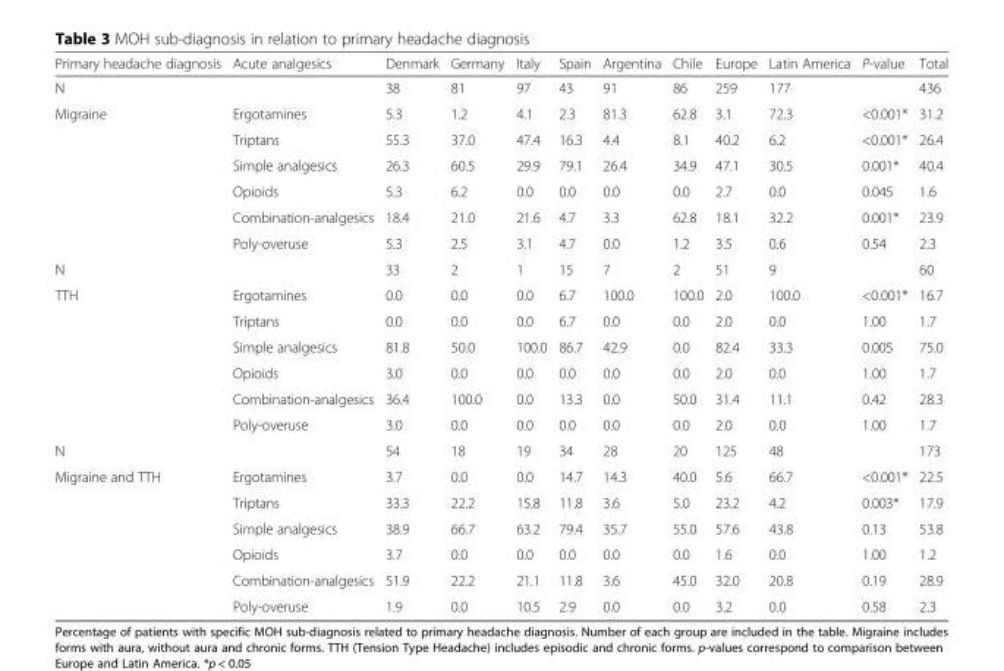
<table><thead><tr><td>Primary headache diagnosis</td><td>Acute analgesics</td><td>Denmark</td><td>Germany</td><td>Italy</td><td>Spain</td><td>Argentina</td><td>Chile</td><td>Europe</td><td>Latin America</td><td>P-value</td><td>Total</td></tr></thead><tbody><tr><td>N</td><td></td><td>38</td><td>81</td><td>97</td><td>43</td><td>91</td><td>86</td><td>259</td><td>177</td><td></td><td>436</td></tr><tr><td rowspan="6">Migraine</td><td>Ergotamines</td><td>5.3</td><td>1.2</td><td>4.1</td><td>2.3</td><td>81.3</td><td>62.8</td><td>3.1</td><td>72.3</td><td>&lt;0.001*</td><td>31.2</td></tr><tr><td>Triptans</td><td>55.3</td><td>37.0</td><td>47.4</td><td>16.3</td><td>4.4</td><td>8.1</td><td>40.2</td><td>6.2</td><td>&lt;0.001*</td><td>26.4</td></tr><tr><td>Simple analgesics</td><td>26.3</td><td>60.5</td><td>29.9</td><td>79.1</td><td>26.4</td><td>34.9</td><td>47.1</td><td>30.5</td><td>0.001*</td><td>40.4</td></tr><tr><td>Opioids</td><td>5.3</td><td>6.2</td><td>0.0</td><td>0.0</td><td>0.0</td><td>0.0</td><td>2.7</td><td>0.0</td><td>0.045</td><td>1.6</td></tr><tr><td>Combination-analgesics</td><td>18.4</td><td>21.0</td><td>21.6</td><td>4.7</td><td>3.3</td><td>62.8</td><td>18.1</td><td>32.2</td><td>0.001*</td><td>23.9</td></tr><tr><td>Poly-overuse</td><td>5.3</td><td>2.5</td><td>3.1</td><td>4.7</td><td>0.0</td><td>1.2</td><td>3.5</td><td>0.6</td><td>0.54</td><td>2.3</td></tr><tr><td>N</td><td></td><td>33</td><td>2</td><td>1</td><td>15</td><td>7</td><td>2</td><td>51</td><td>9</td><td></td><td>60</td></tr><tr><td rowspan="6">TTH</td><td>Ergotamines</td><td>0.0</td><td>0.0</td><td>0.0</td><td>6.7</td><td>100.0</td><td>100.0</td><td>2.0</td><td>100.0</td><td>&lt;0.001*</td><td>16.7</td></tr><tr><td>Triptans</td><td>0.0</td><td>0.0</td><td>0.0</td><td>6.7</td><td>0.0</td><td>0.0</td><td>2.0</td><td>0.0</td><td>1.00</td><td>1.7</td></tr><tr><td>Simple analgesics</td><td>81.8</td><td>50.0</td><td>100.0</td><td>86.7</td><td>42.9</td><td>0.0</td><td>82.4</td><td>33.3</td><td>0.005</td><td>75.0</td></tr><tr><td>Opioids</td><td>3.0</td><td>0.0</td><td>0.0</td><td>0.0</td><td>0.0</td><td>0.0</td><td>2.0</td><td>0.0</td><td>1.00</td><td>1.7</td></tr><tr><td>Combination-analgesics</td><td>36.4</td><td>100.0</td><td>0.0</td><td>13.3</td><td>0.0</td><td>50.0</td><td>31.4</td><td>11.1</td><td>0.42</td><td>28.3</td></tr><tr><td>Poly-overuse</td><td>3.0</td><td>0.0</td><td>0.0</td><td>0.0</td><td>0.0</td><td>0.0</td><td>2.0</td><td>0.0</td><td>1.00</td><td>1.7</td></tr><tr><td>N</td><td></td><td>54</td><td>18</td><td>19</td><td>34</td><td>28</td><td>20</td><td>125</td><td>48</td><td></td><td>173</td></tr><tr><td rowspan="6">Migraine and TTH</td><td>Ergotamines</td><td>3.7</td><td>0.0</td><td>0.0</td><td>14.7</td><td>14.3</td><td>40.0</td><td>5.6</td><td>66.7</td><td>&lt;0.001*</td><td>22.5</td></tr><tr><td>Triptans</td><td>33.3</td><td>22.2</td><td>15.8</td><td>11.8</td><td>3.6</td><td>5.0</td><td>23.2</td><td>4.2</td><td>0.003*</td><td>17.9</td></tr><tr><td>Simple analgesics</td><td>38.9</td><td>66.7</td><td>63.2</td><td>79.4</td><td>35.7</td><td>55.0</td><td>57.6</td><td>43.8</td><td>0.13</td><td>53.8</td></tr><tr><td>Opioids</td><td>3.7</td><td>0.0</td><td>0.0</td><td>0.0</td><td>0.0</td><td>0.0</td><td>1.6</td><td>0.0</td><td>1.00</td><td>1.2</td></tr><tr><td>Combination-analgesics</td><td>51.9</td><td>22.2</td><td>21.1</td><td>11.8</td><td>3.6</td><td>45.0</td><td>32.0</td><td>20.8</td><td>0.19</td><td>28.9</td></tr><tr><td>Poly-overuse</td><td>1.9</td><td>0.0</td><td>10.5</td><td>2.9</td><td>0.0</td><td>0.0</td><td>3.2</td><td>0.0</td><td>0.58</td><td>2.3</td></tr></tbody></table>